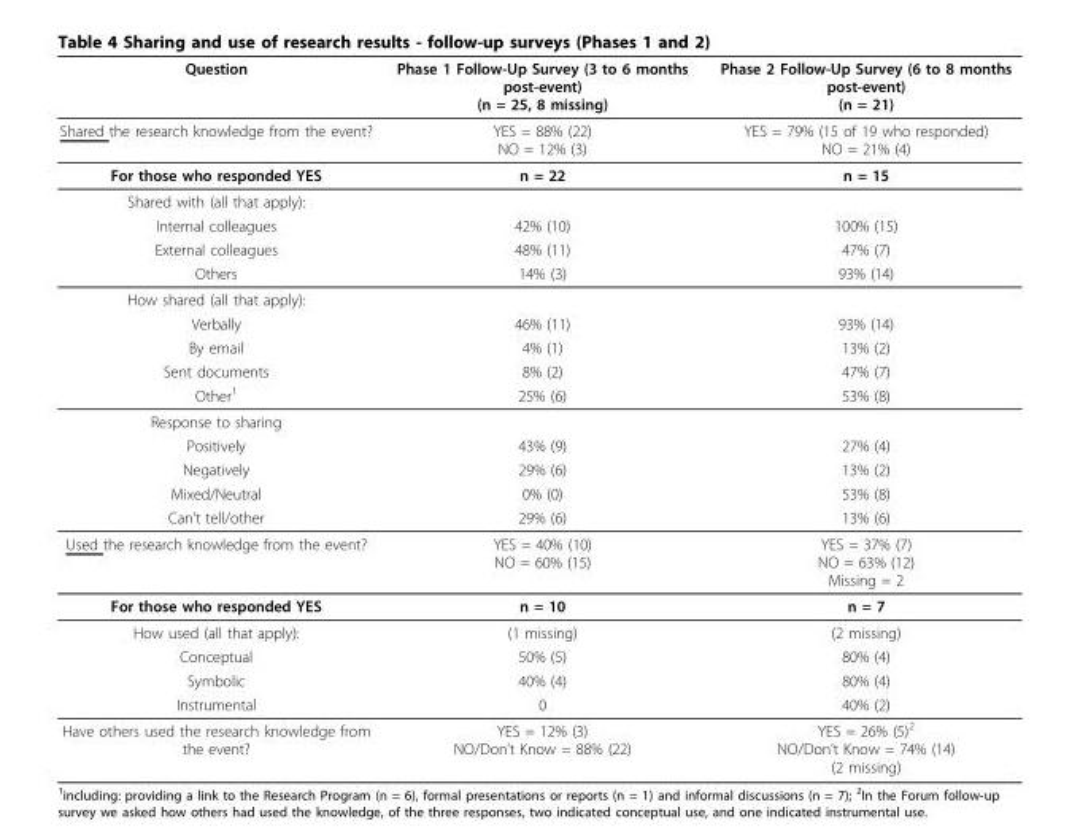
<table><thead><tr><td>Question</td><td>Phase 1 Follow-Up Survey (3 to 6 months post-event) (n = 25, 8 missing)</td><td>Phase 2 Follow-Up Survey (6 to 8 months post-event) (n = 21)</td></tr></thead><tbody><tr><td>Shared the research knowledge from the event?</td><td>YES = 88% (22) NO = 12% (3)</td><td>YES = 79% (15 of 19 who responded) NO = 21% (4)</td></tr><tr><td>For those who responded YES</td><td>n = 22</td><td>n = 15</td></tr><tr><td colspan="3">Shared with (all that apply):</td></tr><tr><td>Internal colleagues</td><td>42% (10)</td><td>100% (15)</td></tr><tr><td>External colleagues</td><td>48% (11)</td><td>47% (7)</td></tr><tr><td>Others</td><td>14% (3)</td><td>93% (14)</td></tr><tr><td colspan="3">How shared (all that apply):</td></tr><tr><td>Verbally</td><td>46% (11)</td><td>93% (14)</td></tr><tr><td>By email</td><td>4% (1)</td><td>13% (2)</td></tr><tr><td>Sent documents</td><td>8% (2)</td><td>47% (7)</td></tr><tr><td>Other<sup>1</sup></td><td>25% (6)</td><td>53% (8)</td></tr><tr><td colspan="3">Response to sharing</td></tr><tr><td>Positively</td><td>43% (9)</td><td>27% (4)</td></tr><tr><td>Negatively</td><td>29% (6)</td><td>13% (2)</td></tr><tr><td>Mixed/Neutral</td><td>0% (0)</td><td>53% (8)</td></tr><tr><td>Can’t tell/other</td><td>29% (6)</td><td>13% (6)</td></tr><tr><td>Used the research knowledge from the event?</td><td>YES = 40% (10) NO = 60% (15)</td><td>YES = 37% (7) NO = 63% (12) Missing = 2</td></tr><tr><td>For those who responded YES</td><td>n = 10</td><td>n = 7</td></tr><tr><td>How used (all that apply):</td><td>(1 missing)</td><td>(2 missing)</td></tr><tr><td>Conceptual</td><td>50% (5)</td><td>80% (4)</td></tr><tr><td>Symbolic</td><td>40% (4)</td><td>80% (4)</td></tr><tr><td>Instrumental</td><td>0</td><td>40% (2)</td></tr><tr><td>Have others used the research knowledge from the event?</td><td>YES = 12% (3) NO/Don’t Know = 88% (22)</td><td>YES = 26% (5)<sup>2</sup> NO/Don’t Know = 74% (14) (2 missing)</td></tr></tbody></table>